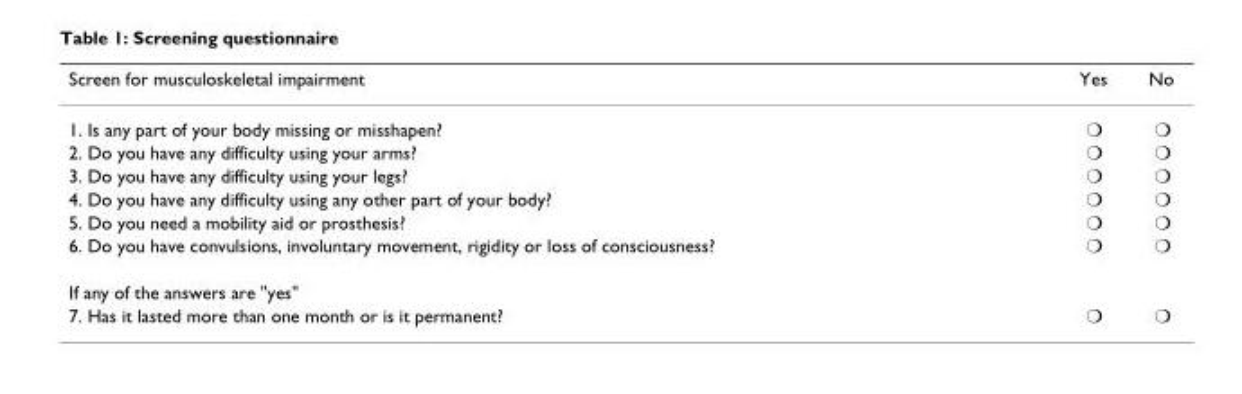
<table><thead><tr><td>Screen for musculoskeletal impairment</td><td>Yes</td><td>No</td></tr></thead><tbody><tr><td>1. Is any part of your body missing or misshapen?</td><td>❍</td><td>❍</td></tr><tr><td>2. Do you have any difficulty using your arms?</td><td>❍</td><td>❍</td></tr><tr><td>3. Do you have any difficulty using your legs?</td><td>❍</td><td>❍</td></tr><tr><td>4. Do you have any difficulty using any other part of your body?</td><td>❍</td><td>❍</td></tr><tr><td>5. Do you need a mobility aid or prosthesis?</td><td>❍</td><td>❍</td></tr><tr><td>6. Do you have convulsions, involuntary movement, rigidity or loss of consciousness?</td><td>❍</td><td>❍</td></tr><tr><td colspan="3">If any of the answers are &quot;yes&quot;</td></tr><tr><td>7. Has it lasted more than one month or is it permanent?</td><td>❍</td><td>❍</td></tr></tbody></table>